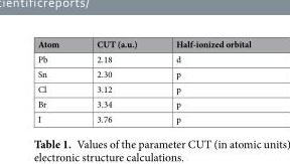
<table><thead><tr><td>Atom</td><td>CUT (a.u.)</td><td>Half-ionized orbital</td></tr></thead><tbody><tr><td>Pb</td><td>2.18</td><td>d</td></tr><tr><td>Sn</td><td>2.30</td><td>p</td></tr><tr><td>Cl</td><td>3.12</td><td>p</td></tr><tr><td>Br</td><td>3.34</td><td>p</td></tr><tr><td>I</td><td>3.76</td><td>p</td></tr></tbody></table>